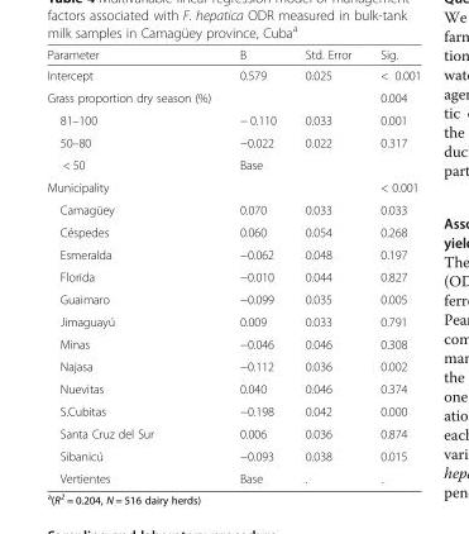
<table><thead><tr><td>Parameter</td><td>B</td><td>Std. Error</td><td>Sig.</td></tr></thead><tbody><tr><td>Intercept</td><td>0.579</td><td>0.025</td><td>&lt; 0.001</td></tr><tr><td>Grass proportion dry season (%)</td><td></td><td></td><td>0.004</td></tr><tr><td>81–100</td><td>− 0.110</td><td>0.033</td><td>0.001</td></tr><tr><td>50–80</td><td>−0.022</td><td>0.022</td><td>0.317</td></tr><tr><td>&lt; 50</td><td>Base</td><td></td><td></td></tr><tr><td>Municipality</td><td></td><td></td><td>&lt; 0.001</td></tr><tr><td>Camagüey</td><td>0.070</td><td>0.033</td><td>0.033</td></tr><tr><td>Céspedes</td><td>0.060</td><td>0.054</td><td>0.268</td></tr><tr><td>Esmeralda</td><td>−0.062</td><td>0.048</td><td>0.197</td></tr><tr><td>Florida</td><td>−0.010</td><td>0.044</td><td>0.827</td></tr><tr><td>Guaimaro</td><td>−0.099</td><td>0.035</td><td>0.005</td></tr><tr><td>Jimaguayú</td><td>0.009</td><td>0.033</td><td>0.791</td></tr><tr><td>Minas</td><td>−0.046</td><td>0.046</td><td>0.308</td></tr><tr><td>Najasa</td><td>−0.112</td><td>0.036</td><td>0.002</td></tr><tr><td>Nuevitas</td><td>0.040</td><td>0.046</td><td>0.374</td></tr><tr><td>S.Cubitas</td><td>−0.198</td><td>0.042</td><td>0.000</td></tr><tr><td>Santa Cruz del Sur</td><td>0.006</td><td>0.036</td><td>0.874</td></tr><tr><td>Sibanicú</td><td>−0.093</td><td>0.038</td><td>0.015</td></tr><tr><td>Vertientes</td><td>Base</td><td>.</td><td>.</td></tr></tbody></table>